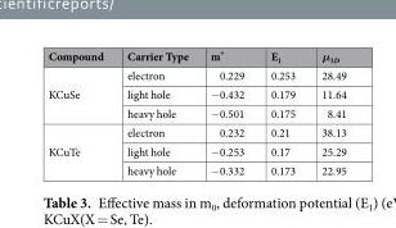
<table><thead><tr><td>Compound</td><td>Carrier Type</td><td>m*</td><td>E<sub>1</sub></td><td>μ<sub>3D</sub></td></tr></thead><tbody><tr><td rowspan="3">KCuSe</td><td>electron</td><td>0.229</td><td>0.253</td><td>28.49</td></tr><tr><td>light hole</td><td>−0.432</td><td>0.179</td><td>11.64</td></tr><tr><td>heavy hole</td><td>−0.501</td><td>0.175</td><td>8.41</td></tr><tr><td rowspan="3">KCuTe</td><td>electron</td><td>0.232</td><td>0.21</td><td>38.13</td></tr><tr><td>light hole</td><td>−0.253</td><td>0.17</td><td>25.29</td></tr><tr><td>heavy hole</td><td>−0.332</td><td>0.173</td><td>22.95</td></tr></tbody></table>